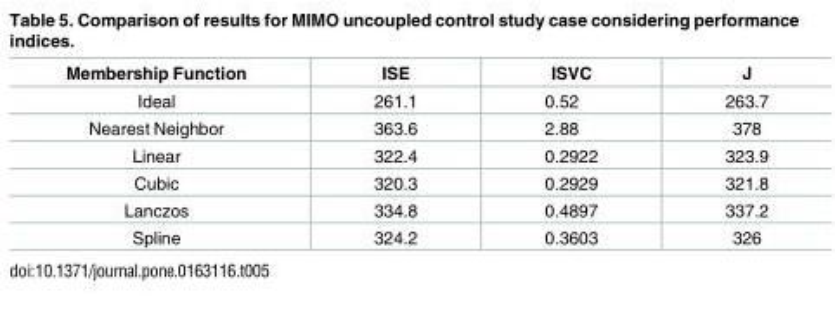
<table><thead><tr><td>Membership Function</td><td>ISE</td><td>ISVC</td><td>J</td></tr></thead><tbody><tr><td>Ideal</td><td>261.1</td><td>0.52</td><td>263.7</td></tr><tr><td>Nearest Neighbor</td><td>363.6</td><td>2.88</td><td>378</td></tr><tr><td>Linear</td><td>322.4</td><td>0.2922</td><td>323.9</td></tr><tr><td>Cubic</td><td>320.3</td><td>0.2929</td><td>321.8</td></tr><tr><td>Lanczos</td><td>334.8</td><td>0.4897</td><td>337.2</td></tr><tr><td>Spline</td><td>324.2</td><td>0.3603</td><td>326</td></tr></tbody></table>